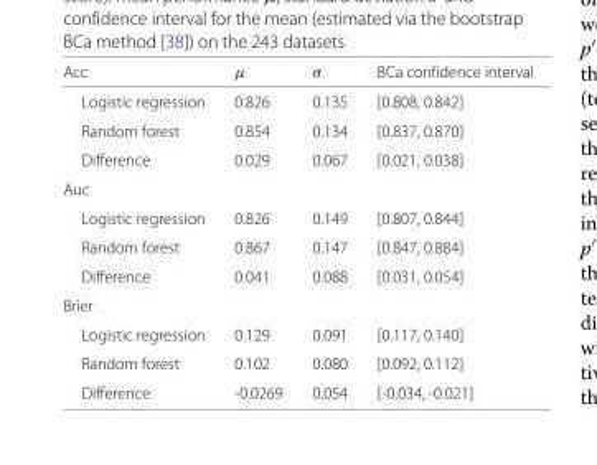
<table><thead><tr><td>Acc</td><td>μ</td><td>σ</td><td>BCa confidence interval</td></tr></thead><tbody><tr><td>Logistic regression</td><td>0.826</td><td>0.135</td><td>[0.808, 0.842]</td></tr><tr><td>Random forest</td><td>0.854</td><td>0.134</td><td>[0.837, 0.870]</td></tr><tr><td>Difference</td><td>0.029</td><td>0.067</td><td>[0.021, 0.038]</td></tr><tr><td colspan="4">Auc</td></tr><tr><td>Logistic regression</td><td>0.826</td><td>0.149</td><td>[0.807, 0.844]</td></tr><tr><td>Random forest</td><td>0.867</td><td>0.147</td><td>[0.847, 0.884]</td></tr><tr><td>Difference</td><td>0.041</td><td>0.088</td><td>[0.031, 0.054]</td></tr><tr><td colspan="4">Brier</td></tr><tr><td>Logistic regression</td><td>0.129</td><td>0.091</td><td>[0.117, 0.140]</td></tr><tr><td>Random forest</td><td>0.102</td><td>0.080</td><td>[0.092, 0.112]</td></tr><tr><td>Difference</td><td>-0.0269</td><td>0.054</td><td>[-0.034, -0.021]</td></tr></tbody></table>